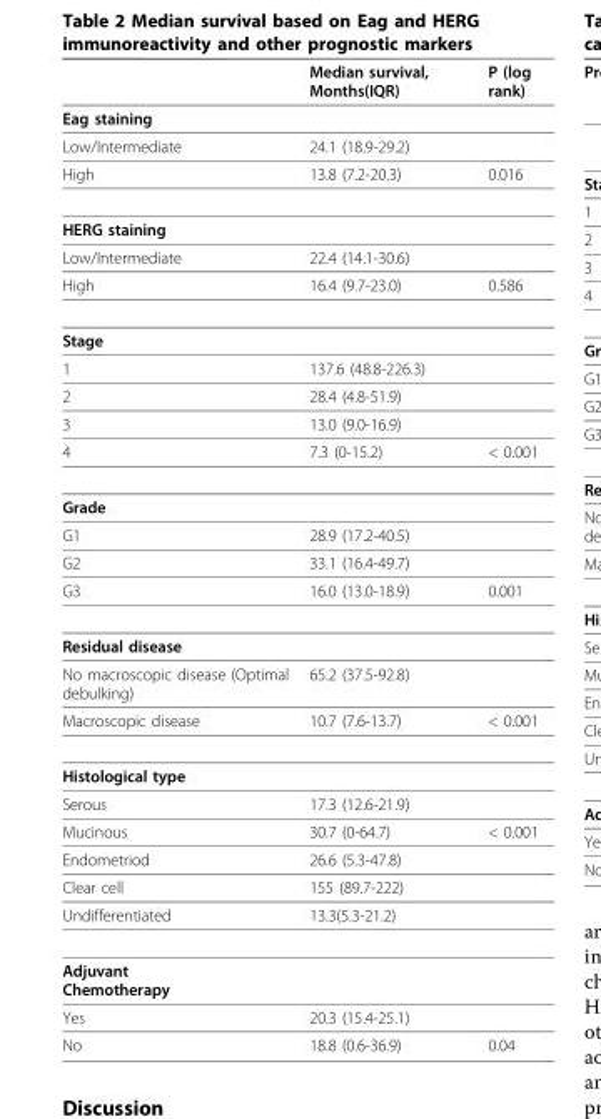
<table><thead><tr><td></td><td>Median survival, Months(IQR)</td><td>P (log rank)</td></tr></thead><tbody><tr><td colspan="3">Eag staining</td></tr><tr><td>Low/Intermediate</td><td>24.1 (18.9-29.2)</td><td></td></tr><tr><td>High</td><td>13.8 (7.2-20.3)</td><td>0.016</td></tr><tr><td colspan="3">HERG staining</td></tr><tr><td>Low/Intermediate</td><td>22.4 (14.1-30.6)</td><td></td></tr><tr><td>High</td><td>16.4 (9.7-23.0)</td><td>0.586</td></tr><tr><td colspan="3">Stage</td></tr><tr><td>1</td><td>137.6 (48.8-226.3)</td><td></td></tr><tr><td>2</td><td>28.4 (4.8-51.9)</td><td></td></tr><tr><td>3</td><td>13.0 (9.0-16.9)</td><td></td></tr><tr><td>4</td><td>7.3 (0-15.2)</td><td>&lt; 0.001</td></tr><tr><td colspan="3">Grade</td></tr><tr><td>G1</td><td>28.9 (17.2-40.5)</td><td></td></tr><tr><td>G2</td><td>33.1 (16.4-49.7)</td><td></td></tr><tr><td>G3</td><td>16.0 (13.0-18.9)</td><td>0.001</td></tr><tr><td colspan="3">Residual disease</td></tr><tr><td>No macroscopic disease (Optimal debulking)</td><td>65.2 (37.5-92.8)</td><td></td></tr><tr><td>Macroscopic disease</td><td>10.7 (7.6-13.7)</td><td>&lt; 0.001</td></tr><tr><td colspan="3">Histological type</td></tr><tr><td>Serous</td><td>17.3 (12.6-21.9)</td><td></td></tr><tr><td>Mucinous</td><td>30.7 (0-64.7)</td><td>&lt; 0.001</td></tr><tr><td>Endometriod</td><td>26.6 (5.3-47.8)</td><td></td></tr><tr><td>Clear cell</td><td>155 (89.7-222)</td><td></td></tr><tr><td>Undifferentiated</td><td>13.3(5.3-21.2)</td><td></td></tr><tr><td colspan="3">Adjuvant Chemotherapy</td></tr><tr><td>Yes</td><td>20.3 (15.4-25.1)</td><td></td></tr><tr><td>No</td><td>18.8 (0.6-36.9)</td><td>0.04</td></tr></tbody></table>